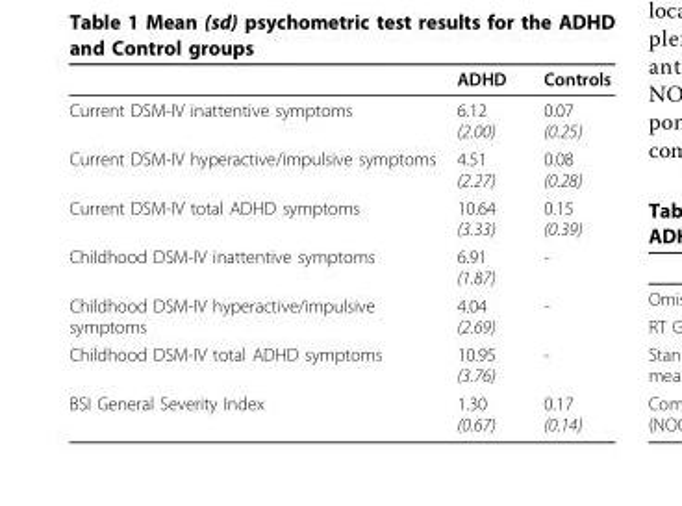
<table><thead><tr><td></td><td>ADHD</td><td>Controls</td></tr></thead><tbody><tr><td>Current DSM-IV inattentive symptoms</td><td>6.12 (2.00)</td><td>0.07 (0.25)</td></tr><tr><td>Current DSM-IV hyperactive/impulsive symptoms</td><td>4.51 (2.27)</td><td>0.08 (0.28)</td></tr><tr><td>Current DSM-IV total ADHD symptoms</td><td>10.64 (3.33)</td><td>0.15 (0.39)</td></tr><tr><td>Childhood DSM-IV inattentive symptoms</td><td>6.91 (1.87)</td><td>-</td></tr><tr><td>Childhood DSM-IV hyperactive/impulsive symptoms</td><td>4.04 (2.69)</td><td>-</td></tr><tr><td>Childhood DSM-IV total ADHD symptoms</td><td>10.95 (3.76)</td><td>-</td></tr><tr><td>BSI General Severity Index</td><td>1.30 (0.67)</td><td>0.17 (0.14)</td></tr></tbody></table>